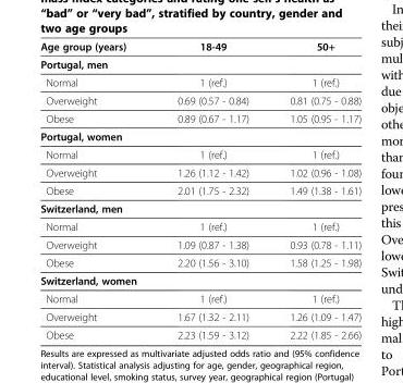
<table><thead><tr><td>Age group (years)</td><td>18-49</td><td>50+</td></tr></thead><tbody><tr><td colspan="3">Portugal, men</td></tr><tr><td>Normal</td><td>1 (ref.)</td><td>1 (ref.)</td></tr><tr><td>Overweight</td><td>0.69 (0.57 - 0.84)</td><td>0.81 (0.75 - 0.88)</td></tr><tr><td>Obese</td><td>0.89 (0.67 - 1.17)</td><td>1.05 (0.95 - 1.17)</td></tr><tr><td colspan="3">Portugal, women</td></tr><tr><td>Normal</td><td>1 (ref.)</td><td>1 (ref.)</td></tr><tr><td>Overweight</td><td>1.26 (1.12 - 1.42)</td><td>1.02 (0.96 - 1.08)</td></tr><tr><td>Obese</td><td>2.01 (1.75 - 2.32)</td><td>1.49 (1.38 - 1.61)</td></tr><tr><td colspan="3">Switzerland, men</td></tr><tr><td>Normal</td><td>1 (ref.)</td><td>1 (ref.)</td></tr><tr><td>Overweight</td><td>1.09 (0.87 - 1.38)</td><td>0.93 (0.78 - 1.11)</td></tr><tr><td>Obese</td><td>2.20 (1.56 - 3.10)</td><td>1.58 (1.25 - 1.98)</td></tr><tr><td colspan="3">Switzerland, women</td></tr><tr><td>Normal</td><td>1 (ref.)</td><td>1 (ref.)</td></tr><tr><td>Overweight</td><td>1.67 (1.32 - 2.11)</td><td>1.26 (1.09 - 1.47)</td></tr><tr><td>Obese</td><td>2.23 (1.59 - 3.12)</td><td>2.22 (1.85 - 2.66)</td></tr></tbody></table>